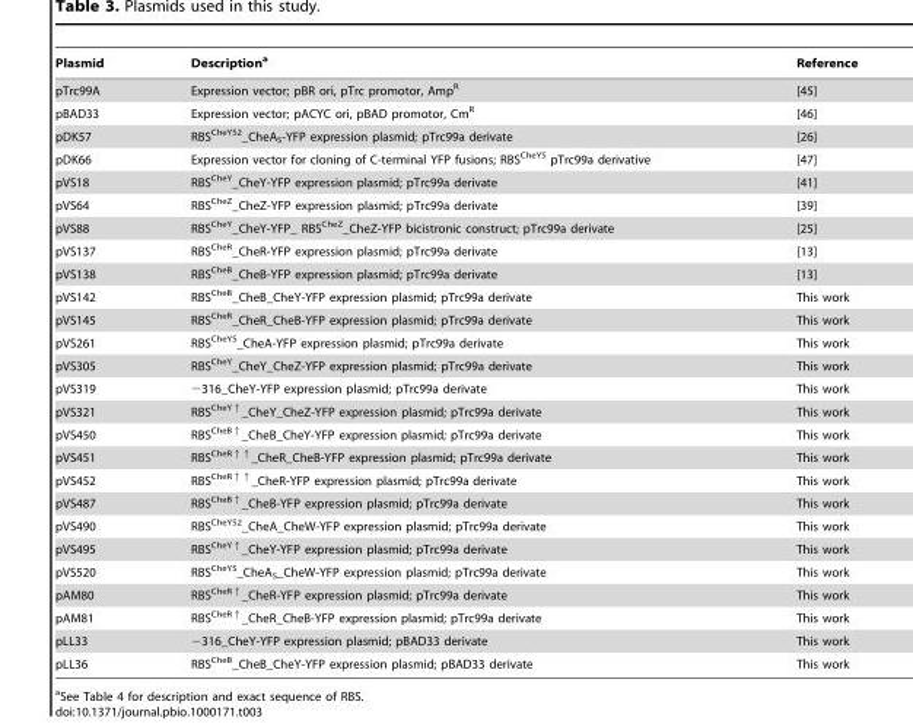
<table><thead><tr><td>Plasmid</td><td>Description<sup>a</sup></td><td>Reference</td></tr></thead><tbody><tr><td>pTrc99A</td><td>Expression vector; pBR ori, pTrc promotor, Amp<sup>R</sup></td><td>[45]</td></tr><tr><td>pBAD33</td><td>Expression vector; pACYC ori, pBAD promotor, Cm<sup>R</sup></td><td>[46]</td></tr><tr><td>pDK57</td><td>RBS<sup>CheYS2</sup>_CheA<sub>S</sub>-YFP expression plasmid; pTrc99a derivate</td><td>[26]</td></tr><tr><td>pDK66</td><td>Expression vector for cloning of C-terminal YFP fusions; RBS<sup>CheYS</sup> pTrc99a derivative</td><td>[47]</td></tr><tr><td>pVS18</td><td>RBS<sup>CheY</sup>_CheY-YFP expression plasmid; pTrc99a derivate</td><td>[41]</td></tr><tr><td>pVS64</td><td>RBS<sup>CheZ</sup>_CheZ-YFP expression plasmid; pTrc99a derivate</td><td>[39]</td></tr><tr><td>pVS88</td><td>RBS<sup>CheY</sup>_CheY-YFP_ RBS<sup>CheZ</sup>_CheZ-YFP bicistronic construct; pTrc99a derivate</td><td>[25]</td></tr><tr><td>pVS137</td><td>RBS<sup>CheR</sup>_CheR-YFP expression plasmid; pTrc99a derivate</td><td>[13]</td></tr><tr><td>pVS138</td><td>RBS<sup>CheB</sup>_CheB-YFP expression plasmid; pTrc99a derivate</td><td>[13]</td></tr><tr><td>pVS142</td><td>RBS<sup>CheB</sup>_CheB_CheY-YFP expression plasmid; pTrc99a derivate</td><td>This work</td></tr><tr><td>pVS145</td><td>RBS<sup>CheR</sup>_CheR_CheB-YFP expression plasmid; pTrc99a derivate</td><td>This work</td></tr><tr><td>pVS261</td><td>RBS<sup>CheYS</sup>_CheA-YFP expression plasmid; pTrc99a derivate</td><td>This work</td></tr><tr><td>pVS305</td><td>RBS<sup>CheY</sup>_CheY_CheZ-YFP expression plasmid; pTrc99a derivate</td><td>This work</td></tr><tr><td>pVS319</td><td>−316_CheY-YFP expression plasmid; pTrc99a derivate</td><td>This work</td></tr><tr><td>pVS321</td><td>RBS<sup>CheY↑</sup>_CheY_CheZ-YFP expression plasmid; pTrc99a derivate</td><td>This work</td></tr><tr><td>pVS450</td><td>RBS<sup>CheB↑</sup>_CheB_CheY-YFP expression plasmid; pTrc99a derivate</td><td>This work</td></tr><tr><td>pVS451</td><td>RBS<sup>CheR↑↑</sup>_CheR_CheB-YFP expression plasmid; pTrc99a derivate</td><td>This work</td></tr><tr><td>pVS452</td><td>RBS<sup>CheR↑↑</sup>_CheR-YFP expression plasmid; pTrc99a derivate</td><td>This work</td></tr><tr><td>pVS487</td><td>RBS<sup>CheB↑</sup>_CheB-YFP expression plasmid; pTrc99a derivate</td><td>This work</td></tr><tr><td>pVS490</td><td>RBS<sup>CheYS2</sup>_CheA_CheW-YFP expression plasmid; pTrc99a derivate</td><td>This work</td></tr><tr><td>pVS495</td><td>RBS<sup>CheY↑</sup>_CheY-YFP expression plasmid; pTrc99a derivate</td><td>This work</td></tr><tr><td>pVS520</td><td>RBSCheYS_CheAS_CheW-YFP expression plasmid; pTrc99a derivate</td><td>This work</td></tr><tr><td>pAM80</td><td>RBS<sup>CheR↑</sup>_CheR-YFP expression plasmid; pTrc99a derivate</td><td>This work</td></tr><tr><td>pAM81</td><td>RBS<sup>CheR↑</sup>_CheR_CheB-YFP expression plasmid; pTrc99a derivate</td><td>This work</td></tr><tr><td>pLL33</td><td>−316_CheY-YFP expression plasmid; pBAD33 derivate</td><td>This work</td></tr><tr><td>pLL36</td><td>RBS<sup>CheB</sup>_CheB_CheY-YFP expression plasmid; pBAD33 derivate</td><td>This work</td></tr></tbody></table>